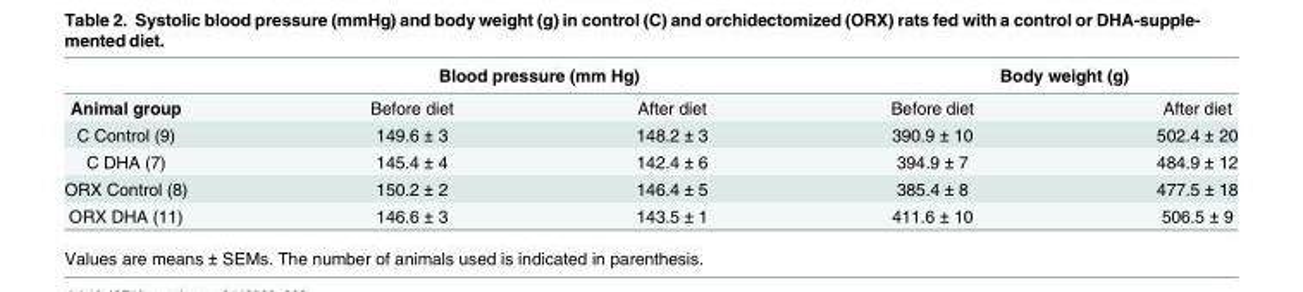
<table><thead><tr><td rowspan="2">Animal group</td><td colspan="2">Blood pressure (mm Hg)</td><td colspan="2">Body weight (g)</td></tr><tr><td>Before diet</td><td>After diet</td><td>Before diet</td><td>After diet</td></tr></thead><tbody><tr><td>C Control (9)</td><td>149.6 ± 3</td><td>148.2 ± 3</td><td>390.9 ± 10</td><td>502.4 ± 20</td></tr><tr><td>C DHA (7)</td><td>145.4 ± 4</td><td>142.4 ± 6</td><td>394.9 ± 7</td><td>484.9 ± 12</td></tr><tr><td>ORX Control (8)</td><td>150.2 ± 2</td><td>146.4 ± 5</td><td>385.4 ± 8</td><td>477.5 ± 18</td></tr><tr><td>ORX DHA (11)</td><td>146.6 ± 3</td><td>143.5 ± 1</td><td>411.6 ± 10</td><td>506.5 ± 9</td></tr></tbody></table>